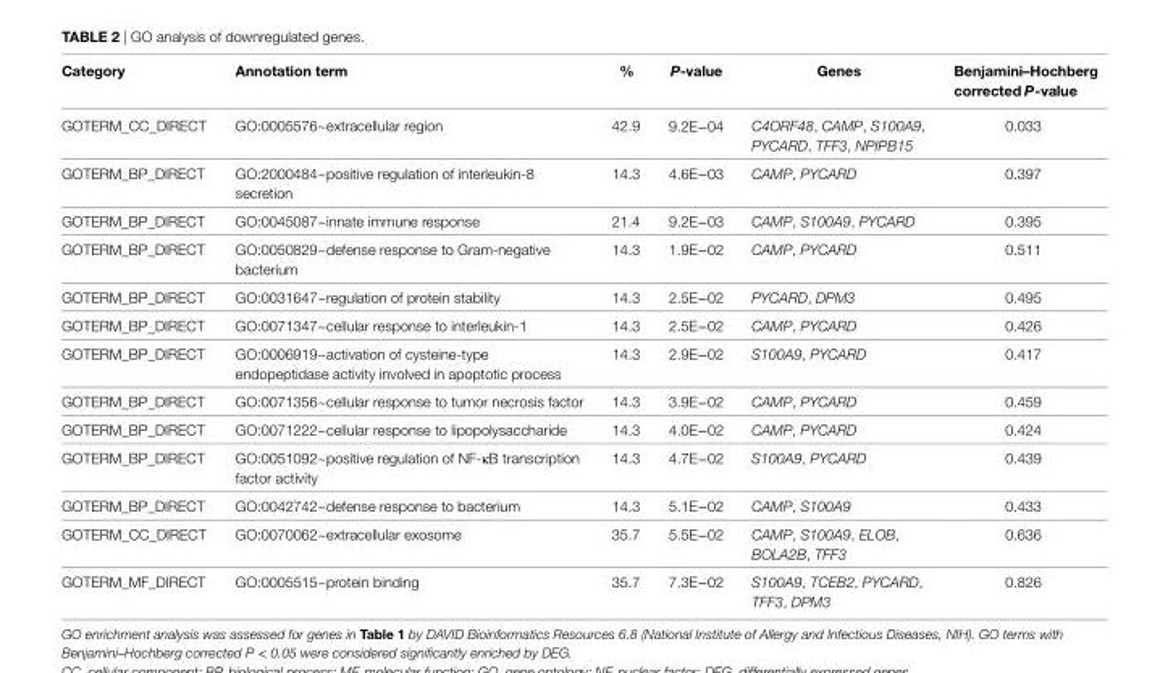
<table><thead><tr><td>category</td><td>annotation term</td><td>%</td><td>P-value</td><td>genes</td><td>Benjamini–hochberg corrected P-value</td></tr></thead><tbody><tr><td>GOTERM_CC_DIRECT</td><td>GO:0005576~extracellular region</td><td>42.9</td><td>9.2E−04</td><td>C4ORF48, CAMP, S100A9, PYCARD, TFF3, NPIPB15</td><td>0.033</td></tr><tr><td>GOTERM_BP_DIRECT</td><td>GO:2000484~positive regulation of interleukin-8 secretion</td><td>14.3</td><td>4.6E−03</td><td>CAMP, PYCARD</td><td>0.397</td></tr><tr><td>GOTERM_BP_DIRECT</td><td>GO:0045087~innate immune response</td><td>21.4</td><td>9.2E−03</td><td>CAMP, S100A9, PYCARD</td><td>0.395</td></tr><tr><td>GOTERM_BP_DIRECT</td><td>GO:0050829~defense response to Gram-negative bacterium</td><td>14.3</td><td>1.9E−02</td><td>CAMP, PYCARD</td><td>0.511</td></tr><tr><td>GOTERM_BP_DIRECT</td><td>GO:0031647~regulation of protein stability</td><td>14.3</td><td>2.5E−02</td><td>PYCARD, DPM3</td><td>0.495</td></tr><tr><td>GOTERM_BP_DIRECT</td><td>GO:0071347~cellular response to interleukin-1</td><td>14.3</td><td>2.5E−02</td><td>CAMP, PYCARD</td><td>0.426</td></tr><tr><td>GOTERM_BP_DIRECT</td><td>GO:0006919~activation of cysteine-type endopeptidase activity involved in apoptotic process</td><td>14.3</td><td>2.9E−02</td><td>S100A9, PYCARD</td><td>0.417</td></tr><tr><td>GOTERM_BP_DIRECT</td><td>GO:0071356~cellular response to tumor necrosis factor</td><td>14.3</td><td>3.9E−02</td><td>CAMP, PYCARD</td><td>0.459</td></tr><tr><td>GOTERM_BP_DIRECT</td><td>GO:0071222~cellular response to lipopolysaccharide</td><td>14.3</td><td>4.0E−02</td><td>CAMP, PYCARD</td><td>0.424</td></tr><tr><td>GOTERM_BP_DIRECT</td><td>GO:0051092~positive regulation of NF-κB transcription factor activity</td><td>14.3</td><td>4.7E−02</td><td>S100A9, PYCARD</td><td>0.439</td></tr><tr><td>GOTERM_BP_DIRECT</td><td>GO:0042742~defense response to bacterium</td><td>14.3</td><td>5.1E−02</td><td>CAMP, S100A9</td><td>0.433</td></tr><tr><td>GOTERM_CC_DIRECT</td><td>GO:0070062~extracellular exosome</td><td>35.7</td><td>5.5E−02</td><td>CAMP, S100A9, ELOB, BOLA2B, TFF3</td><td>0.636</td></tr><tr><td>GOTERM_MF_DIRECT</td><td>GO:0005515~protein binding</td><td>35.7</td><td>7.3E−02</td><td>S100A9, TCEB2, PYCARD, TFF3, DPM3</td><td>0.826</td></tr></tbody></table>